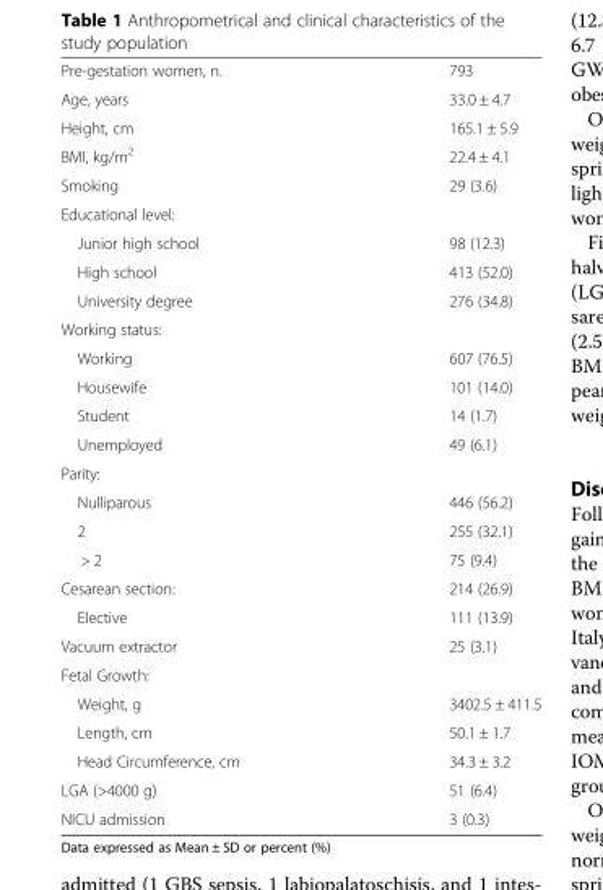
<table><tbody><tr><td>Pre-gestation women, n.</td><td>793</td></tr><tr><td>Age, years</td><td>33.0 ± 4.7</td></tr><tr><td>Height, cm</td><td>165.1 ± 5.9</td></tr><tr><td>BMI, kg/m<sup>2</sup></td><td>22.4 ± 4.1</td></tr><tr><td>Smoking</td><td>29 (3.6)</td></tr><tr><td colspan="2">Educational level:</td></tr><tr><td>Junior high school</td><td>98 (12.3)</td></tr><tr><td>High school</td><td>413 (52.0)</td></tr><tr><td>University degree</td><td>276 (34.8)</td></tr><tr><td colspan="2">Working status:</td></tr><tr><td>Working</td><td>607 (76.5)</td></tr><tr><td>Housewife</td><td>101 (14.0)</td></tr><tr><td>Student</td><td>14 (1.7)</td></tr><tr><td>Unemployed</td><td>49 (6.1)</td></tr><tr><td colspan="2">Parity:</td></tr><tr><td>Nulliparous</td><td>446 (56.2)</td></tr><tr><td>2</td><td>255 (32.1)</td></tr><tr><td>&gt; 2</td><td>75 (9.4)</td></tr><tr><td>Cesarean section:</td><td>214 (26.9)</td></tr><tr><td>Elective</td><td>111 (13.9)</td></tr><tr><td>Vacuum extractor</td><td>25 (3.1)</td></tr><tr><td colspan="2">Fetal Growth:</td></tr><tr><td>Weight, g</td><td>3402.5 ± 411.5</td></tr><tr><td>Length, cm</td><td>50.1 ± 1.7</td></tr><tr><td>Head Circumference, cm</td><td>34.3 ± 3.2</td></tr><tr><td>LGA (&gt;4000 g)</td><td>51 (6.4)</td></tr><tr><td>NICU admission</td><td>3 (0.3)</td></tr></tbody></table>